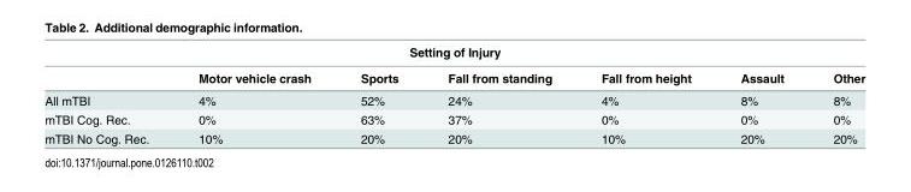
<table><thead><tr><td colspan="7">Setting of Injury</td></tr><tr><td></td><td>Motor vehicle crash</td><td>Sports</td><td>Fall from standing</td><td>Fall from height</td><td>Assault</td><td>Other</td></tr></thead><tbody><tr><td>All mTBI</td><td>4%</td><td>52%</td><td>24%</td><td>4%</td><td>8%</td><td>8%</td></tr><tr><td>mTBI Cog. Rec.</td><td>0%</td><td>63%</td><td>37%</td><td>0%</td><td>0%</td><td>0%</td></tr><tr><td>mTBI No Cog. Rec.</td><td>10%</td><td>20%</td><td>20%</td><td>10%</td><td>20%</td><td>20%</td></tr></tbody></table>